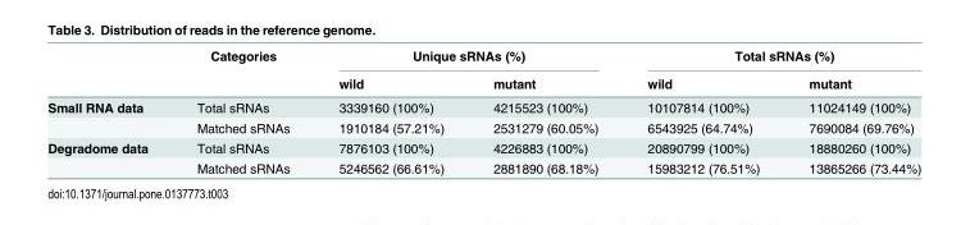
<table><thead><tr><td rowspan="2"></td><td rowspan="2">Categories</td><td colspan="2">Unique sRNAs (%)</td><td colspan="2">Total sRNAs (%)</td></tr><tr><td>wild</td><td>mutant</td><td>wild</td><td>mutant</td></tr></thead><tbody><tr><td rowspan="2">Small RNA data</td><td>Total sRNAs</td><td>3339160 (100%)</td><td>4215523 (100%)</td><td>10107814 (100%)</td><td>11024149 (100%)</td></tr><tr><td>Matched sRNAs</td><td>1910184 (57.21%)</td><td>2531279 (60.05%)</td><td>6543925 (64.74%)</td><td>7690084 (69.76%)</td></tr><tr><td rowspan="2">Degradome data</td><td>Total sRNAs</td><td>7876103 (100%)</td><td>4226883 (100%)</td><td>20890799 (100%)</td><td>18880260 (100%)</td></tr><tr><td>Matched sRNAs</td><td>5246562 (66.61%)</td><td>2881890 (68.18%)</td><td>15983212 (76.51%)</td><td>13865266 (73.44%)</td></tr></tbody></table>